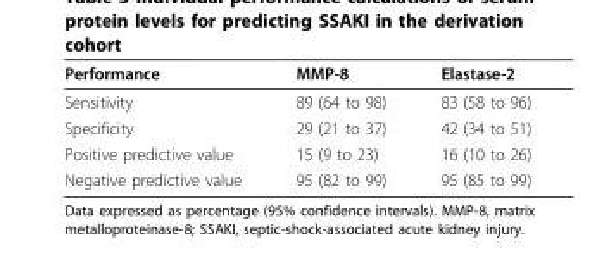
<table><thead><tr><td>Performance</td><td>MMP-8</td><td>Elastase-2</td></tr></thead><tbody><tr><td>Sensitivity</td><td>89 (64 to 98)</td><td>83 (58 to 96)</td></tr><tr><td>Specificity</td><td>29 (21 to 37)</td><td>42 (34 to 51)</td></tr><tr><td>Positive predictive value</td><td>15 (9 to 23)</td><td>16 (10 to 26)</td></tr><tr><td>Negative predictive value</td><td>95 (82 to 99)</td><td>95 (85 to 99)</td></tr></tbody></table>